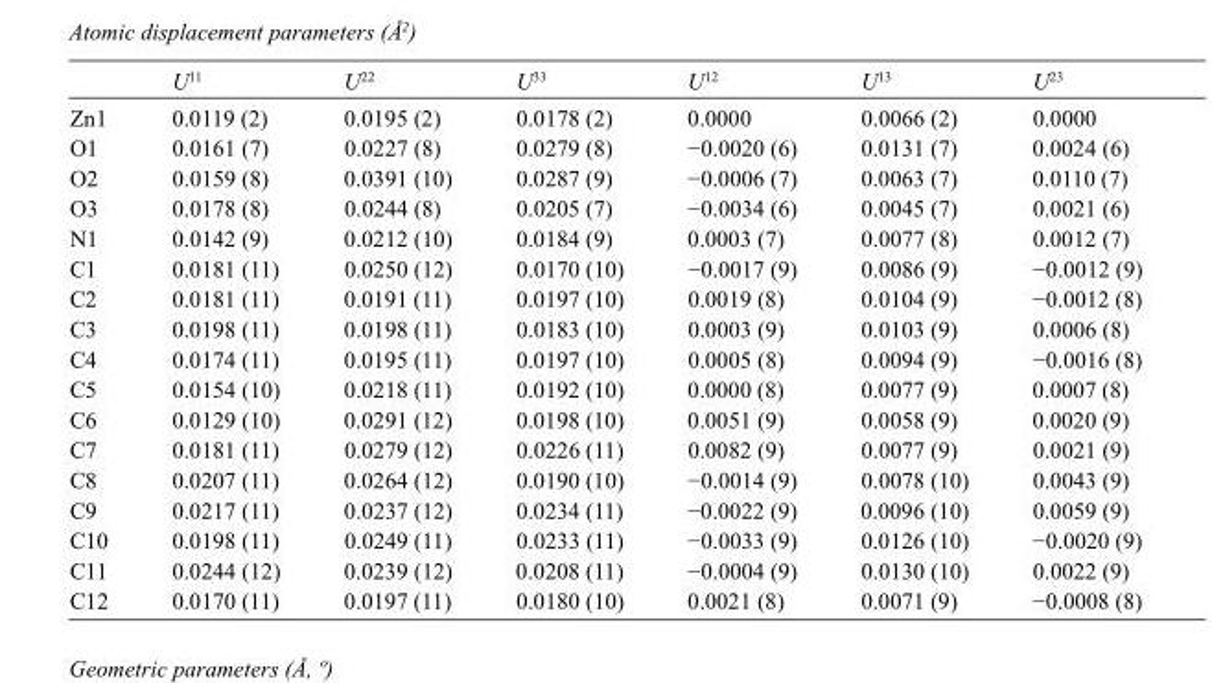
<table><thead><tr><td></td><td>U<sup>11</sup></td><td>U<sup>22</sup></td><td>U<sup>33</sup></td><td>U<sup>12</sup></td><td>U<sup>13</sup></td><td>U<sup>23</sup></td></tr></thead><tbody><tr><td>Zn1</td><td>0.0119 (2)</td><td>0.0195 (2)</td><td>0.0178 (2)</td><td>0.0000</td><td>0.0066 (2)</td><td>0.0000</td></tr><tr><td>O1</td><td>0.0161 (7)</td><td>0.0227 (8)</td><td>0.0279 (8)</td><td>−0.0020 (6)</td><td>0.0131 (7)</td><td>0.0024 (6)</td></tr><tr><td>O2</td><td>0.0159 (8)</td><td>0.0391 (10)</td><td>0.0287 (9)</td><td>−0.0006 (7)</td><td>0.0063 (7)</td><td>0.0110 (7)</td></tr><tr><td>O3</td><td>0.0178 (8)</td><td>0.0244 (8)</td><td>0.0205 (7)</td><td>−0.0034 (6)</td><td>0.0045 (7)</td><td>0.0021 (6)</td></tr><tr><td>N1</td><td>0.0142 (9)</td><td>0.0212 (10)</td><td>0.0184 (9)</td><td>0.0003 (7)</td><td>0.0077 (8)</td><td>0.0012 (7)</td></tr><tr><td>C1</td><td>0.0181 (11)</td><td>0.0250 (12)</td><td>0.0170 (10)</td><td>−0.0017 (9)</td><td>0.0086 (9)</td><td>−0.0012 (9)</td></tr><tr><td>C2</td><td>0.0181 (11)</td><td>0.0191 (11)</td><td>0.0197 (10)</td><td>0.0019 (8)</td><td>0.0104 (9)</td><td>−0.0012 (8)</td></tr><tr><td>C3</td><td>0.0198 (11)</td><td>0.0198 (11)</td><td>0.0183 (10)</td><td>0.0003 (9)</td><td>0.0103 (9)</td><td>0.0006 (8)</td></tr><tr><td>C4</td><td>0.0174 (11)</td><td>0.0195 (11)</td><td>0.0197 (10)</td><td>0.0005 (8)</td><td>0.0094 (9)</td><td>−0.0016 (8)</td></tr><tr><td>C5</td><td>0.0154 (10)</td><td>0.0218 (11)</td><td>0.0192 (10)</td><td>0.0000 (8)</td><td>0.0077 (9)</td><td>0.0007 (8)</td></tr><tr><td>C6</td><td>0.0129 (10)</td><td>0.0291 (12)</td><td>0.0198 (10)</td><td>0.0051 (9)</td><td>0.0058 (9)</td><td>0.0020 (9)</td></tr><tr><td>C7</td><td>0.0181 (11)</td><td>0.0279 (12)</td><td>0.0226 (11)</td><td>0.0082 (9)</td><td>0.0077 (9)</td><td>0.0021 (9)</td></tr><tr><td>C8</td><td>0.0207 (11)</td><td>0.0264 (12)</td><td>0.0190 (10)</td><td>−0.0014 (9)</td><td>0.0078 (10)</td><td>0.0043 (9)</td></tr><tr><td>C9</td><td>0.0217 (11)</td><td>0.0237 (12)</td><td>0.0234 (11)</td><td>−0.0022 (9)</td><td>0.0096 (10)</td><td>0.0059 (9)</td></tr><tr><td>C10</td><td>0.0198 (11)</td><td>0.0249 (11)</td><td>0.0233 (11)</td><td>−0.0033 (9)</td><td>0.0126 (10)</td><td>−0.0020 (9)</td></tr><tr><td>C11</td><td>0.0244 (12)</td><td>0.0239 (12)</td><td>0.0208 (11)</td><td>−0.0004 (9)</td><td>0.0130 (10)</td><td>0.0022 (9)</td></tr><tr><td>C12</td><td>0.0170 (11)</td><td>0.0197 (11)</td><td>0.0180 (10)</td><td>0.0021 (8)</td><td>0.0071 (9)</td><td>−0.0008 (8)</td></tr></tbody></table>